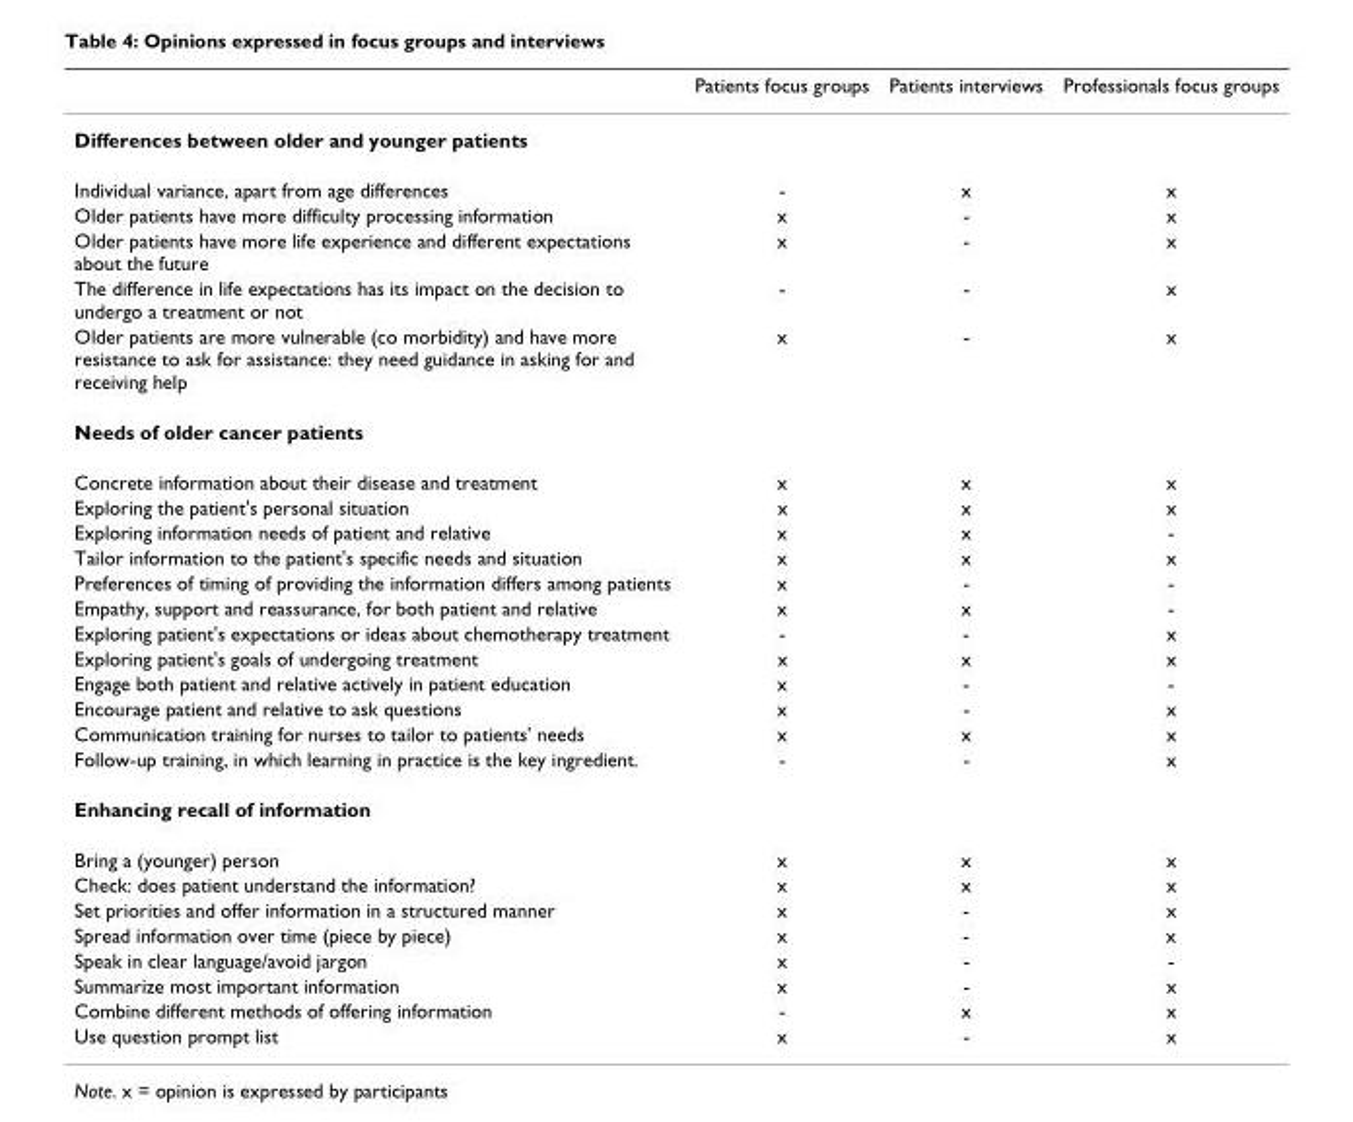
<table><thead><tr><td></td><td>Patients focus groups</td><td>Patients interviews</td><td>Professionals focus groups</td></tr></thead><tbody><tr><td colspan="4">Differences between older and younger patients</td></tr><tr><td>Individual variance, apart from age differences</td><td>-</td><td>x</td><td>x</td></tr><tr><td>Older patients have more difficulty processing information</td><td>x</td><td>-</td><td>x</td></tr><tr><td>Older patients have more life experience and different expectations about the future</td><td>x</td><td>-</td><td>x</td></tr><tr><td>The difference in life expectations has its impact on the decision to undergo a treatment or not</td><td>-</td><td>-</td><td>x</td></tr><tr><td>Older patients are more vulnerable (co morbidity) and have more resistance to ask for assistance: they need guidance in asking for and receiving help</td><td>x</td><td>-</td><td>x</td></tr><tr><td colspan="4">Needs of older cancer patients</td></tr><tr><td>Concrete information about their disease and treatment</td><td>x</td><td>x</td><td>x</td></tr><tr><td>Exploring the patient&#x27;s personal situation</td><td>x</td><td>x</td><td>x</td></tr><tr><td>Exploring information needs of patient and relative</td><td>x</td><td>x</td><td>-</td></tr><tr><td>Tailor information to the patient&#x27;s specific needs and situation</td><td>x</td><td>x</td><td>x</td></tr><tr><td>Preferences of timing of providing the information differs among patients</td><td>x</td><td>-</td><td>-</td></tr><tr><td>Empathy, support and reassurance, for both patient and relative</td><td>x</td><td>x</td><td>-</td></tr><tr><td>Exploring patient&#x27;s expectations or ideas about chemotherapy treatment</td><td>-</td><td>-</td><td>x</td></tr><tr><td>Exploring patient&#x27;s goals of undergoing treatment</td><td>x</td><td>x</td><td>x</td></tr><tr><td>Engage both patient and relative actively in patient education</td><td>x</td><td>-</td><td>-</td></tr><tr><td>Encourage patient and relative to ask questions</td><td>x</td><td>-</td><td>x</td></tr><tr><td>Communication training for nurses to tailor to patients&#x27; needs</td><td>x</td><td>x</td><td>x</td></tr><tr><td>Follow-up training, in which learning in practice is the key ingredient.</td><td>-</td><td>-</td><td>x</td></tr><tr><td colspan="4">Enhancing recall of information</td></tr><tr><td>Bring a (younger) person</td><td>x</td><td>x</td><td>x</td></tr><tr><td>Check: does patient understand the information?</td><td>x</td><td>x</td><td>x</td></tr><tr><td>Set priorities and offer information in a structured manner</td><td>x</td><td>-</td><td>x</td></tr><tr><td>Spread information over time (piece by piece)</td><td>x</td><td>-</td><td>x</td></tr><tr><td>Speak in clear language/avoid jargon</td><td>x</td><td>-</td><td>-</td></tr><tr><td>Summarize most important information</td><td>x</td><td>-</td><td>x</td></tr><tr><td>Combine different methods of offering information</td><td>-</td><td>x</td><td>x</td></tr><tr><td>Use question prompt list</td><td>x</td><td>-</td><td>x</td></tr></tbody></table>